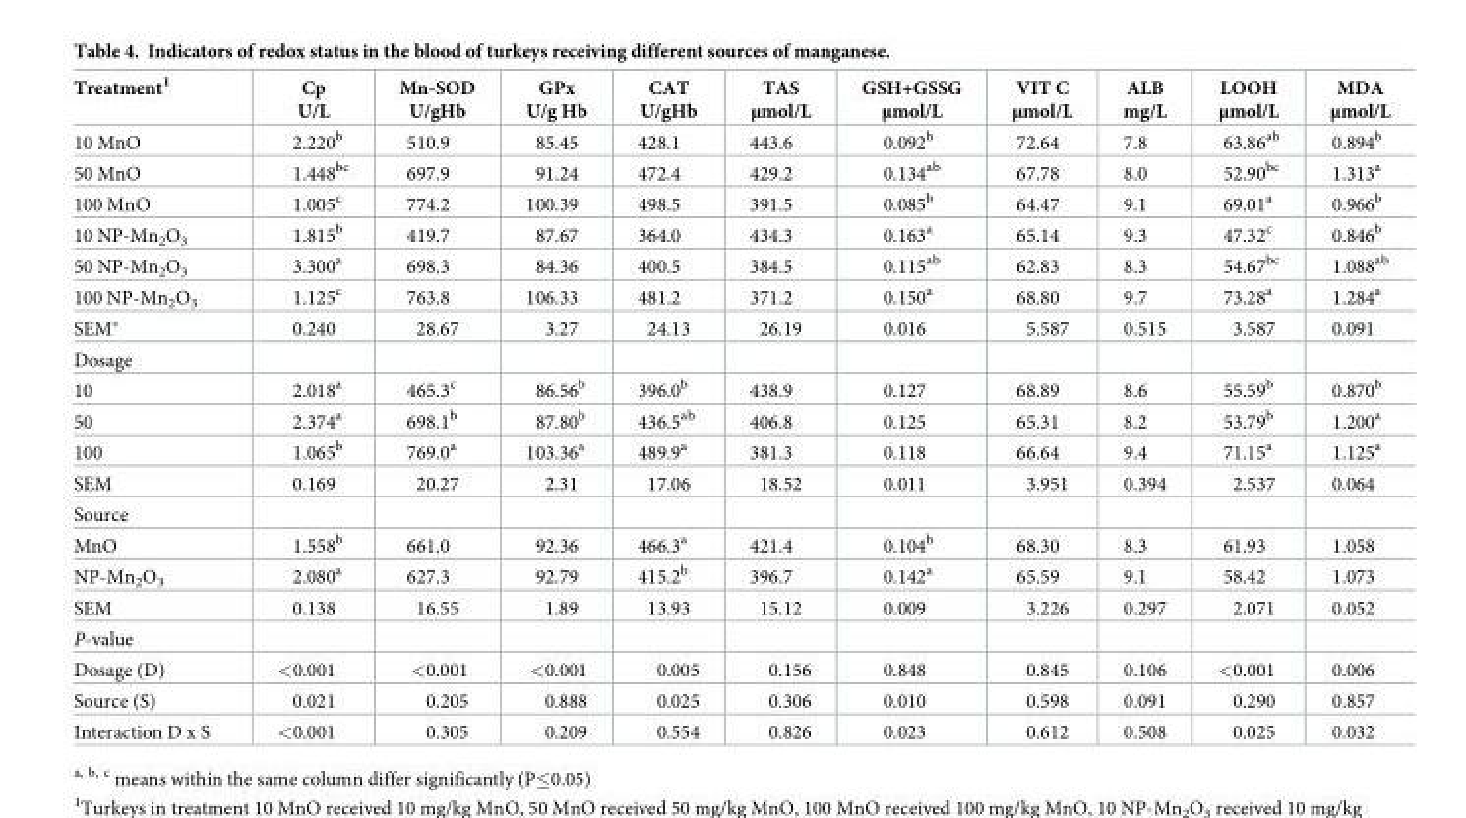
<table><thead><tr><td>Treatment<sup>1</sup></td><td>Cp U/L</td><td>Mn-SOD U/gHb</td><td>GPx U/g Hb</td><td>CAT U/gHb</td><td>TAS μmol/L</td><td>GSH+GSSG μmol/L</td><td>VIT C μmol/L</td><td>ALB mg/L</td><td>LOOH μmol/L</td><td>MDA μmol/L</td></tr></thead><tbody><tr><td>10 MnO</td><td>2.220<sup>b</sup></td><td>510.9</td><td>85.45</td><td>428.1</td><td>443.6</td><td>0.092<sup>b</sup></td><td>72.64</td><td>7.8</td><td>63.86<sup>ab</sup></td><td>0.894<sup>b</sup></td></tr><tr><td>50 MnO</td><td>1.448<sup>bc</sup></td><td>697.9</td><td>91.24</td><td>472.4</td><td>429.2</td><td>0.134<sup>ab</sup></td><td>67.78</td><td>8.0</td><td>52.90<sup>bc</sup></td><td>1.313<sup>a</sup></td></tr><tr><td>100 MnO</td><td>1.005<sup>c</sup></td><td>774.2</td><td>100.39</td><td>498.5</td><td>391.5</td><td>0.085<sup>b</sup></td><td>64.47</td><td>9.1</td><td>69.01<sup>a</sup></td><td>0.966<sup>b</sup></td></tr><tr><td>10 NP-Mn<sub>2</sub>O<sub>3</sub></td><td>1.815<sup>b</sup></td><td>419.7</td><td>87.67</td><td>364.0</td><td>434.3</td><td>0.163<sup>a</sup></td><td>65.14</td><td>9.3</td><td>47.32<sup>c</sup></td><td>0.846<sup>b</sup></td></tr><tr><td>50 NP-Mn<sub>2</sub>O<sub>3</sub></td><td>3.300<sup>a</sup></td><td>698.3</td><td>84.36</td><td>400.5</td><td>384.5</td><td>0.115<sup>ab</sup></td><td>62.83</td><td>8.3</td><td>54.67<sup>bc</sup></td><td>1.088<sup>ab</sup></td></tr><tr><td>100 NP-Mn<sub>2</sub>O<sub>3</sub></td><td>1.125<sup>c</sup></td><td>763.8</td><td>106.33</td><td>481.2</td><td>371.2</td><td>0.150<sup>a</sup></td><td>68.80</td><td>9.7</td><td>73.28<sup>a</sup></td><td>1.284<sup>a</sup></td></tr><tr><td>SEM*</td><td>0.240</td><td>28.67</td><td>3.27</td><td>24.13</td><td>26.19</td><td>0.016</td><td>5.587</td><td>0.515</td><td>3.587</td><td>0.091</td></tr><tr><td colspan="11">Dosage</td></tr><tr><td>10</td><td>2.018<sup>a</sup></td><td>465.3<sup>c</sup></td><td>86.56<sup>b</sup></td><td>396.0<sup>b</sup></td><td>438.9</td><td>0.127</td><td>68.89</td><td>8.6</td><td>55.59<sup>b</sup></td><td>0.870<sup>b</sup></td></tr><tr><td>50</td><td>2.374<sup>a</sup></td><td>698.1<sup>b</sup></td><td>87.80<sup>b</sup></td><td>436.5<sup>ab</sup></td><td>406.8</td><td>0.125</td><td>65.31</td><td>8.2</td><td>53.79<sup>b</sup></td><td>1.200<sup>a</sup></td></tr><tr><td>100</td><td>1.065<sup>b</sup></td><td>769.0<sup>a</sup></td><td>103.36<sup>a</sup></td><td>489.9<sup>a</sup></td><td>381.3</td><td>0.118</td><td>66.64</td><td>9.4</td><td>71.15<sup>a</sup></td><td>1.125<sup>a</sup></td></tr><tr><td>SEM</td><td>0.169</td><td>20.27</td><td>2.31</td><td>17.06</td><td>18.52</td><td>0.011</td><td>3.951</td><td>0.394</td><td>2.537</td><td>0.064</td></tr><tr><td colspan="11">Source</td></tr><tr><td>MnO</td><td>1.558<sup>b</sup></td><td>661.0</td><td>92.36</td><td>466.3<sup>a</sup></td><td>421.4</td><td>0.104<sup>b</sup></td><td>68.30</td><td>8.3</td><td>61.93</td><td>1.058</td></tr><tr><td>NP-Mn<sub>2</sub>O<sub>3</sub></td><td>2.080<sup>a</sup></td><td>627.3</td><td>92.79</td><td>415.2<sup>b</sup></td><td>396.7</td><td>0.142<sup>a</sup></td><td>65.59</td><td>9.1</td><td>58.42</td><td>1.073</td></tr><tr><td>SEM</td><td>0.138</td><td>16.55</td><td>1.89</td><td>13.93</td><td>15.12</td><td>0.009</td><td>3.226</td><td>0.297</td><td>2.071</td><td>0.052</td></tr><tr><td colspan="11">P-value</td></tr><tr><td>Dosage (D)</td><td>&lt;0.001</td><td>&lt;0.001</td><td>&lt;0.001</td><td>0.005</td><td>0.156</td><td>0.848</td><td>0.845</td><td>0.106</td><td>&lt;0.001</td><td>0.006</td></tr><tr><td>Source (S)</td><td>0.021</td><td>0.205</td><td>0.888</td><td>0.025</td><td>0.306</td><td>0.010</td><td>0.598</td><td>0.091</td><td>0.290</td><td>0.857</td></tr><tr><td>Interaction D x S</td><td>&lt;0.001</td><td>0.305</td><td>0.209</td><td>0.554</td><td>0.826</td><td>0.023</td><td>0.612</td><td>0.508</td><td>0.025</td><td>0.032</td></tr></tbody></table>